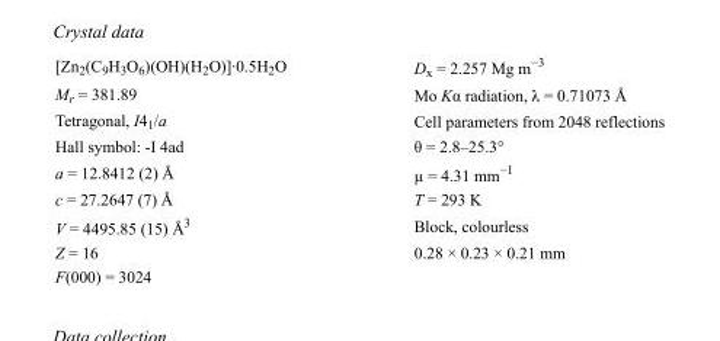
<table><tbody><tr><td>[Zn<sub>2</sub>(C<sub>9</sub>H<sub>3</sub>O<sub>6</sub>)(OH)(H<sub>2</sub>O)]·0.5H<sub>2</sub>O</td><td>D<sub>x</sub> = 2.257 Mg m<sup>−3</sup></td></tr><tr><td>M<sub>r</sub> = 381.89</td><td>Mo Kα radiation, λ = 0.71073 Å</td></tr><tr><td>Tetragonal, I4<sub>1</sub>/a</td><td>Cell parameters from 2048 reflections</td></tr><tr><td>Hall symbol: -I 4ad</td><td>θ = 2.8–25.3°</td></tr><tr><td>a = 12.8412 (2) Å</td><td>µ = 4.31 mm<sup>−1</sup></td></tr><tr><td>c = 27.2647 (7) Å</td><td>T = 293 K</td></tr><tr><td>V = 4495.85 (15) Å<sup>3</sup></td><td>Block, colourless</td></tr><tr><td>Z = 16</td><td>0.28 × 0.23 × 0.21 mm</td></tr><tr><td>F(000) = 3024</td><td></td></tr></tbody></table>